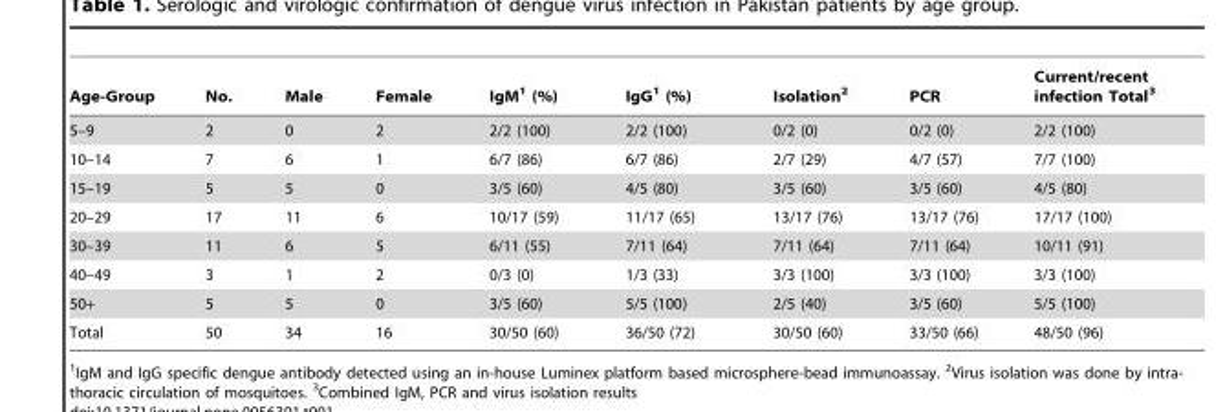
<table><thead><tr><td>Age-Group</td><td>No.</td><td>Male</td><td>Female</td><td>IgM<sup>1</sup> (%)</td><td>IgG<sup>1</sup> (%)</td><td>Isolation<sup>2</sup></td><td>PCR</td><td>Current/recent infection Total<sup>3</sup></td></tr></thead><tbody><tr><td>5–9</td><td>2</td><td>0</td><td>2</td><td>2/2 (100)</td><td>2/2 (100)</td><td>0/2 (0)</td><td>0/2 (0)</td><td>2/2 (100)</td></tr><tr><td>10–14</td><td>7</td><td>6</td><td>1</td><td>6/7 (86)</td><td>6/7 (86)</td><td>2/7 (29)</td><td>4/7 (57)</td><td>7/7 (100)</td></tr><tr><td>15–19</td><td>5</td><td>5</td><td>0</td><td>3/5 (60)</td><td>4/5 (80)</td><td>3/5 (60)</td><td>3/5 (60)</td><td>4/5 (80)</td></tr><tr><td>20–29</td><td>17</td><td>11</td><td>6</td><td>10/17 (59)</td><td>11/17 (65)</td><td>13/17 (76)</td><td>13/17 (76)</td><td>17/17 (100)</td></tr><tr><td>30–39</td><td>11</td><td>6</td><td>5</td><td>6/11 (55)</td><td>7/11 (64)</td><td>7/11 (64)</td><td>7/11 (64)</td><td>10/11 (91)</td></tr><tr><td>40–49</td><td>3</td><td>1</td><td>2</td><td>0/3 (0)</td><td>1/3 (33)</td><td>3/3 (100)</td><td>3/3 (100)</td><td>3/3 (100)</td></tr><tr><td>50+</td><td>5</td><td>5</td><td>0</td><td>3/5 (60)</td><td>5/5 (100)</td><td>2/5 (40)</td><td>3/5 (60)</td><td>5/5 (100)</td></tr><tr><td>Total</td><td>50</td><td>34</td><td>16</td><td>30/50 (60)</td><td>36/50 (72)</td><td>30/50 (60)</td><td>33/50 (66)</td><td>48/50 (96)</td></tr></tbody></table>